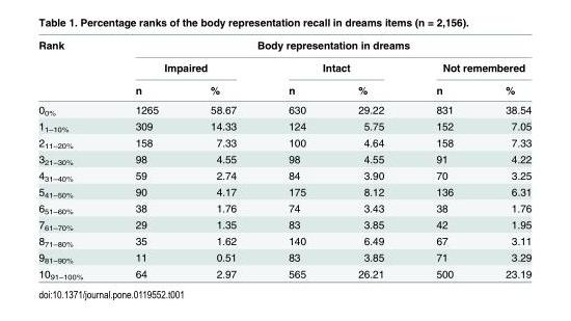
<table><thead><tr><td rowspan="3">Rank</td><td colspan="6">Body representation in dreams</td></tr><tr><td colspan="2">Impaired</td><td colspan="2">Intact</td><td colspan="2">Not remembered</td></tr><tr><td>n</td><td>%</td><td>n</td><td>%</td><td>n</td><td>%</td></tr></thead><tbody><tr><td>0<sub>0%</sub></td><td>1265</td><td>58.67</td><td>630</td><td>29.22</td><td>831</td><td>38.54</td></tr><tr><td>1<sub>1–10%</sub></td><td>309</td><td>14.33</td><td>124</td><td>5.75</td><td>152</td><td>7.05</td></tr><tr><td>2<sub>11–20%</sub></td><td>158</td><td>7.33</td><td>100</td><td>4.64</td><td>158</td><td>7.33</td></tr><tr><td>3<sub>21–30%</sub></td><td>98</td><td>4.55</td><td>98</td><td>4.55</td><td>91</td><td>4.22</td></tr><tr><td>4<sub>31–40%</sub></td><td>59</td><td>2.74</td><td>84</td><td>3.90</td><td>70</td><td>3.25</td></tr><tr><td>5<sub>41–50%</sub></td><td>90</td><td>4.17</td><td>175</td><td>8.12</td><td>136</td><td>6.31</td></tr><tr><td>6<sub>51–60%</sub></td><td>38</td><td>1.76</td><td>74</td><td>3.43</td><td>38</td><td>1.76</td></tr><tr><td>7<sub>61–70%</sub></td><td>29</td><td>1.35</td><td>83</td><td>3.85</td><td>42</td><td>1.95</td></tr><tr><td>8<sub>71–80%</sub></td><td>35</td><td>1.62</td><td>140</td><td>6.49</td><td>67</td><td>3.11</td></tr><tr><td>9<sub>81–90%</sub></td><td>11</td><td>0.51</td><td>83</td><td>3.85</td><td>71</td><td>3.29</td></tr><tr><td>10<sub>91–100%</sub></td><td>64</td><td>2.97</td><td>565</td><td>26.21</td><td>500</td><td>23.19</td></tr></tbody></table>